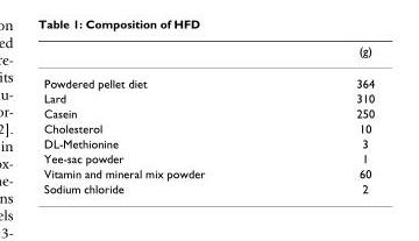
<table><thead><tr><td></td><td>(g)</td></tr></thead><tbody><tr><td>Powdered pellet diet</td><td>364</td></tr><tr><td>Lard</td><td>310</td></tr><tr><td>Casein</td><td>250</td></tr><tr><td>Cholesterol</td><td>10</td></tr><tr><td>DL-Methionine</td><td>3</td></tr><tr><td>Yee-sac powder</td><td>1</td></tr><tr><td>Vitamin and mineral mix powder</td><td>60</td></tr><tr><td>Sodium chloride</td><td>2</td></tr></tbody></table>